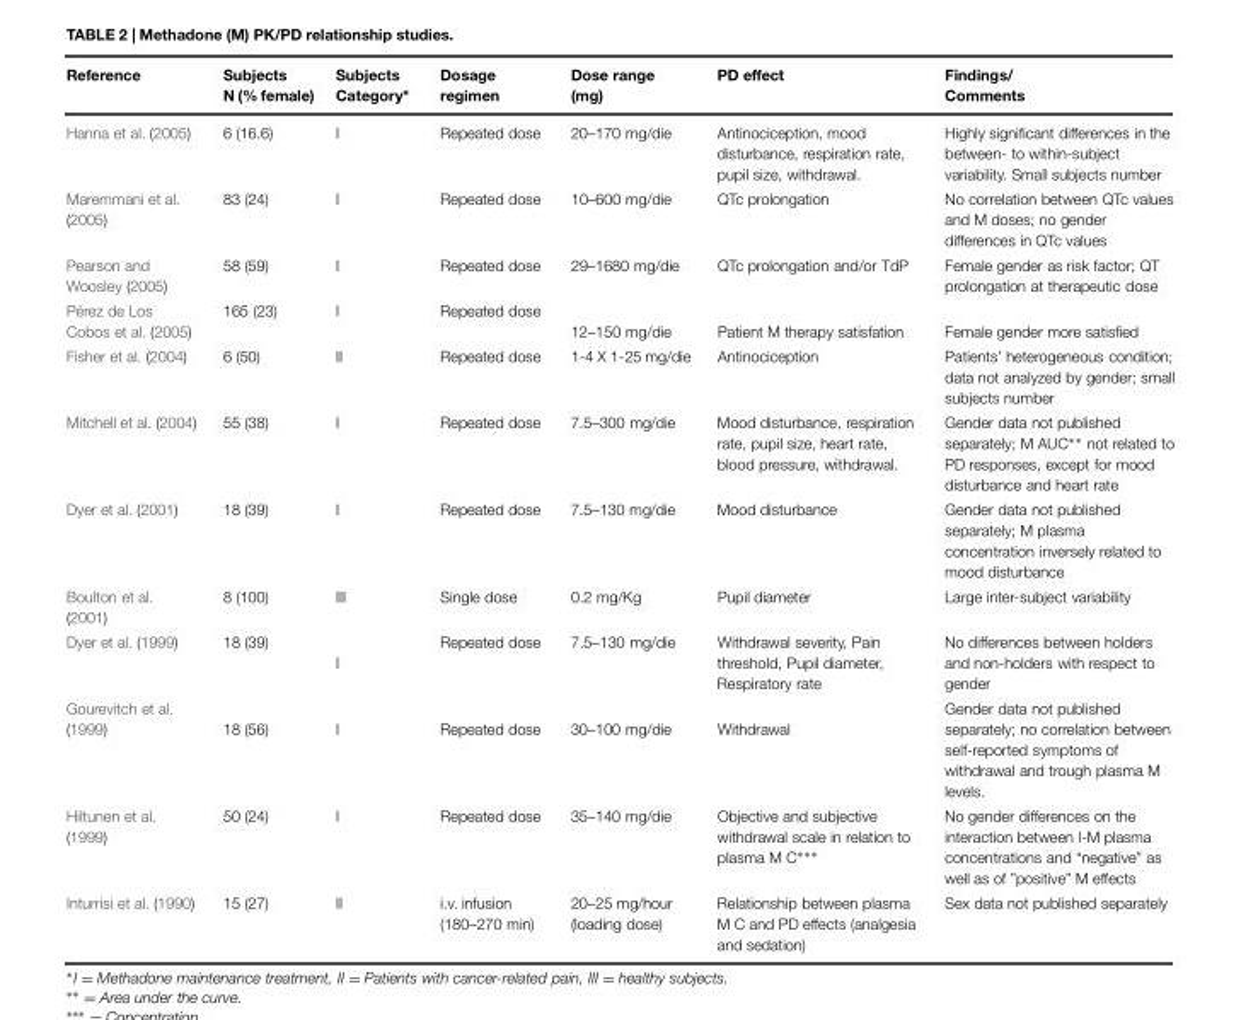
<table><thead><tr><td>Reference</td><td>Subjects N (% female)</td><td>Subjects Category∗</td><td>Dosage regimen</td><td>Dose range (mg)</td><td>PD effect</td><td>Findings/ Comments</td></tr></thead><tbody><tr><td>Hanna et al. (2005)</td><td>6 (16.6)</td><td>I</td><td>Repeated dose</td><td>20–170 mg/die</td><td>Antinociception, mood disturbance, respiration rate, pupil size, withdrawal.</td><td>Highly significant differences in the between- to within-subject variability. Small subjects number</td></tr><tr><td>Maremmani et al. (2005)</td><td>83 (24)</td><td>I</td><td>Repeated dose</td><td>10–600 mg/die</td><td>QTc prolongation</td><td>No correlation between QTc values and M doses; no gender differences in QTc values</td></tr><tr><td>Pearson and Woosley (2005)</td><td>58 (59)</td><td>I</td><td>Repeated dose</td><td>29–1680 mg/die</td><td>QTc prolongation and/or TdP</td><td>Female gender as risk factor; QT prolongation at therapeutic dose</td></tr><tr><td>Pérez de Los Cobos et al. (2005)</td><td>165 (23)</td><td>I</td><td>Repeated dose</td><td>12–150 mg/die</td><td>Patient M therapy satisfation</td><td>Female gender more satisfied</td></tr><tr><td>Fisher et al. (2004)</td><td>6 (50)</td><td>II</td><td>Repeated dose</td><td>1-4 X 1-25 mg/die</td><td>Antinociception</td><td>Patients’ heterogeneous condition; data not analyzed by gender; small subjects number</td></tr><tr><td>Mitchell et al. (2004)</td><td>55 (38)</td><td>I</td><td>Repeated dose</td><td>7.5–300 mg/die</td><td>Mood disturbance, respiration rate, pupil size, heart rate, blood pressure, withdrawal.</td><td>Gender data not published separately; M AUC∗∗ not related to PD responses, except for mood disturbance and heart rate</td></tr><tr><td>Dyer et al. (2001)</td><td>18 (39)</td><td>I</td><td>Repeated dose</td><td>7.5–130 mg/die</td><td>Mood disturbance</td><td>Gender data not published separately; M plasma concentration inversely related to mood disturbance</td></tr><tr><td>Boulton et al. (2001)</td><td>8 (100)</td><td>III</td><td>Single dose</td><td>0.2 mg/Kg</td><td>Pupil diameter</td><td>Large inter-subject variability</td></tr><tr><td>Dyer et al. (1999)</td><td>18 (39)</td><td>I</td><td>Repeated dose</td><td>7.5–130 mg/die</td><td>Withdrawal severity, Pain threshold, Pupil diameter, Respiratory rate</td><td>No differences between holders and non-holders with respect to gender</td></tr><tr><td>Gourevitch et al. (1999)</td><td>18 (56)</td><td>I</td><td>Repeated dose</td><td>30–100 mg/die</td><td>Withdrawal</td><td>Gender data not published separately; no correlation between self-reported symptoms of withdrawal and trough plasma M levels.</td></tr><tr><td>Hiltunen et al. (1999)</td><td>50 (24)</td><td>I</td><td>Repeated dose</td><td>35–140 mg/die</td><td>Objective and subjective withdrawal scale in relation to plasma M C∗∗∗</td><td>No gender differences on the interaction between l-M plasma concentrations and “negative” as well as of ”positive” M effects</td></tr><tr><td>Inturrisi et al. (1990)</td><td>15 (27)</td><td>II</td><td>i.v. infusion (180–270 min)</td><td>20–25 mg/hour (loading dose)</td><td>Relationship between plasma M C and PD effects (analgesia and sedation)</td><td>Sex data not published separately</td></tr></tbody></table>